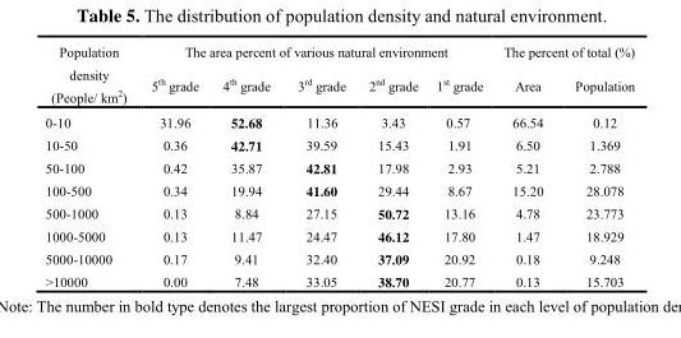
<table><thead><tr><td rowspan="2">Population density (People/ km<sup>2</sup>)</td><td colspan="5">The area percent of various natural environment</td><td colspan="2">The percent of total (%)</td></tr><tr><td>5<sup>th</sup> grade</td><td>4<sup>th</sup> grade</td><td>3<sup>rd</sup> grade</td><td>2<sup>nd</sup> grade</td><td>1<sup>st</sup> grade</td><td>Area</td><td>Population</td></tr></thead><tbody><tr><td>0-10</td><td>31.96</td><td>52.68</td><td>11.36</td><td>3.43</td><td>0.57</td><td>66.54</td><td>0.12</td></tr><tr><td>10-50</td><td>0.36</td><td>42.71</td><td>39.59</td><td>15.43</td><td>1.91</td><td>6.50</td><td>1.369</td></tr><tr><td>50-100</td><td>0.42</td><td>35.87</td><td>42.81</td><td>17.98</td><td>2.93</td><td>5.21</td><td>2.788</td></tr><tr><td>100-500</td><td>0.34</td><td>19.94</td><td>41.60</td><td>29.44</td><td>8.67</td><td>15.20</td><td>28.078</td></tr><tr><td>500-1000</td><td>0.13</td><td>8.84</td><td>27.15</td><td>50.72</td><td>13.16</td><td>4.78</td><td>23.773</td></tr><tr><td>1000-5000</td><td>0.13</td><td>11.47</td><td>24.47</td><td>46.12</td><td>17.80</td><td>1.47</td><td>18.929</td></tr><tr><td>5000-10000</td><td>0.17</td><td>9.41</td><td>32.40</td><td>37.09</td><td>20.92</td><td>0.18</td><td>9.248</td></tr><tr><td>&gt;10000</td><td>0.00</td><td>7.48</td><td>33.05</td><td>38.70</td><td>20.77</td><td>0.13</td><td>15.703</td></tr></tbody></table>